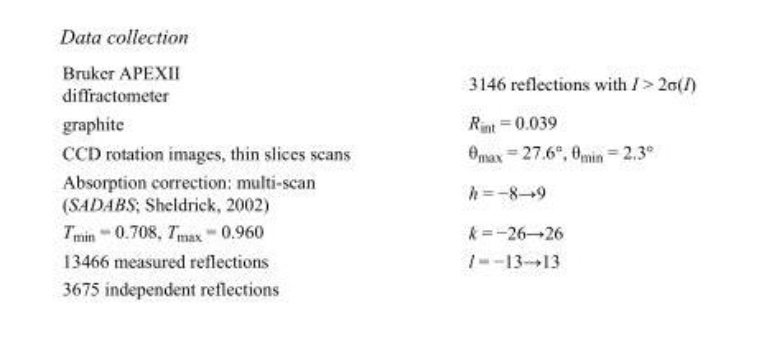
<table><tbody><tr><td>Bruker APEXII diffractometer</td><td>3146 reflections with I &gt; 2σ(I)</td></tr><tr><td>graphite</td><td>R<sub>int</sub> = 0.039</td></tr><tr><td>CCD rotation images, thin slices scans</td><td>θ<sub>max</sub> = 27.6°, θ<sub>min</sub> = 2.3°</td></tr><tr><td>Absorption correction: multi-scan (SADABS; Sheldrick, 2002)</td><td>h = −8→9</td></tr><tr><td>T<sub>min</sub> = 0.708, T<sub>max</sub> = 0.960</td><td>k = −26→26</td></tr><tr><td>13466 measured reflections</td><td>l = −13→13</td></tr><tr><td>3675 independent reflections</td><td></td></tr></tbody></table>